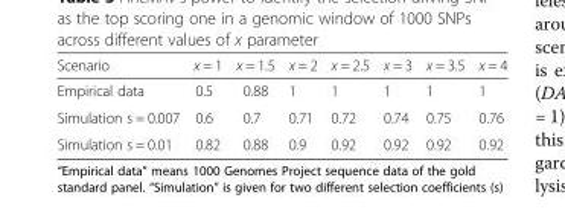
<table><thead><tr><td>Scenario</td><td>x = 1</td><td>x = 1.5</td><td>x = 2</td><td>x = 2.5</td><td>x = 3</td><td>x = 3.5</td><td>x = 4</td></tr></thead><tbody><tr><td>Empirical data</td><td>0.5</td><td>0.88</td><td>1</td><td>1</td><td>1</td><td>1</td><td>1</td></tr><tr><td>Simulation s = 0.007</td><td>0.6</td><td>0.7</td><td>0.71</td><td>0.72</td><td>0.74</td><td>0.75</td><td>0.76</td></tr><tr><td>Simulation s = 0.01</td><td>0.82</td><td>0.88</td><td>0.9</td><td>0.92</td><td>0.92</td><td>0.92</td><td>0.92</td></tr></tbody></table>